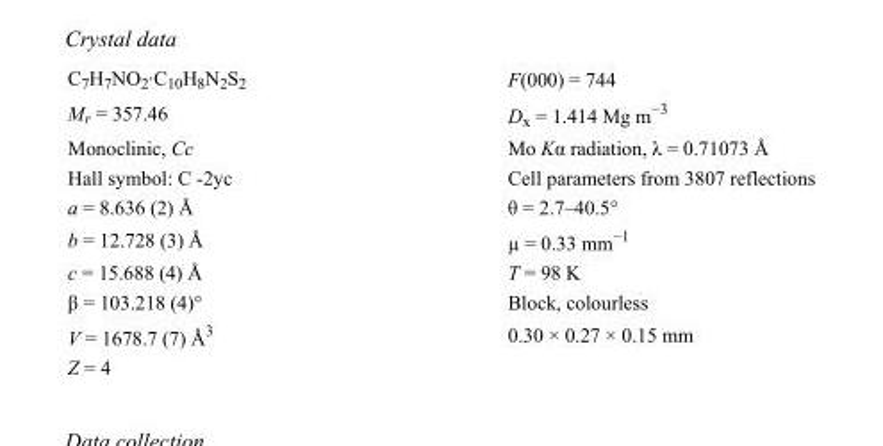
<table><tbody><tr><td>C<sub>7</sub>H<sub>7</sub>NO<sub>2</sub>·C<sub>10</sub>H<sub>8</sub>N<sub>2</sub>S<sub>2</sub></td><td>F(000) = 744</td></tr><tr><td>M<sub>r</sub> = 357.46</td><td>D<sub>x</sub> = 1.414 Mg m<sup>−3</sup></td></tr><tr><td>Monoclinic, Cc</td><td>Mo Kα radiation, λ = 0.71073 Å</td></tr><tr><td>Hall symbol: C -2yc</td><td>Cell parameters from 3807 reflections</td></tr><tr><td>a = 8.636 (2) Å</td><td>θ = 2.7–40.5°</td></tr><tr><td>b = 12.728 (3) Å</td><td>µ = 0.33 mm<sup>−1</sup></td></tr><tr><td>c = 15.688 (4) Å</td><td>T = 98 K</td></tr><tr><td>β = 103.218 (4)°</td><td>Block, colourless</td></tr><tr><td>V = 1678.7 (7) Å<sup>3</sup></td><td>0.30 × 0.27 × 0.15 mm</td></tr><tr><td>Z = 4</td><td></td></tr></tbody></table>